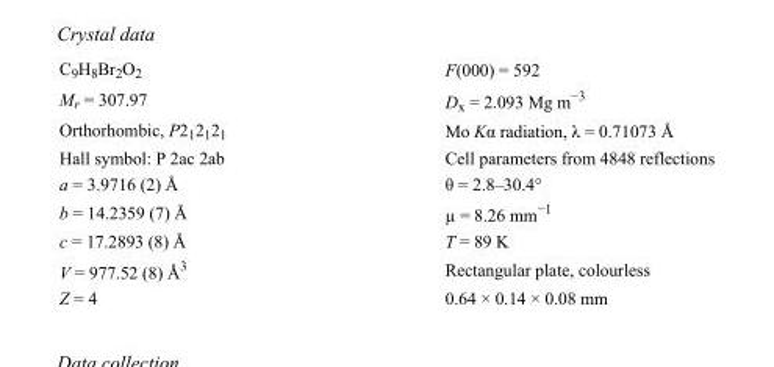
<table><tbody><tr><td>C<sub>9</sub>H<sub>8</sub>Br<sub>2</sub>O<sub>2</sub></td><td>F(000) = 592</td></tr><tr><td>M<sub>r</sub> = 307.97</td><td>D<sub>x</sub> = 2.093 Mg m<sup>−3</sup></td></tr><tr><td>Orthorhombic, P2<sub>1</sub>2<sub>1</sub>2<sub>1</sub></td><td>Mo Kα radiation, λ = 0.71073 Å</td></tr><tr><td>Hall symbol: P 2ac 2ab</td><td>Cell parameters from 4848 reflections</td></tr><tr><td>a = 3.9716 (2) Å</td><td>θ = 2.8–30.4°</td></tr><tr><td>b = 14.2359 (7) Å</td><td>µ = 8.26 mm<sup>−1</sup></td></tr><tr><td>c = 17.2893 (8) Å</td><td>T = 89 K</td></tr><tr><td>V = 977.52 (8) Å<sup>3</sup></td><td>Rectangular plate, colourless</td></tr><tr><td>Z = 4</td><td>0.64 × 0.14 × 0.08 mm</td></tr></tbody></table>